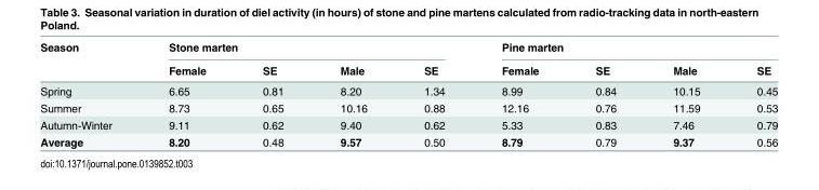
<table><thead><tr><td rowspan="2">Season</td><td colspan="4">Stone marten</td><td colspan="4">Pine marten</td></tr><tr><td>Female</td><td>SE</td><td>Male</td><td>SE</td><td>Female</td><td>SE</td><td>Male</td><td>SE</td></tr></thead><tbody><tr><td>Spring</td><td>6.65</td><td>0.81</td><td>8.20</td><td>1.34</td><td>8.99</td><td>0.84</td><td>10.15</td><td>0.45</td></tr><tr><td>Summer</td><td>8.73</td><td>0.65</td><td>10.16</td><td>0.88</td><td>12.16</td><td>0.76</td><td>11.59</td><td>0.53</td></tr><tr><td>Autumn-Winter</td><td>9.11</td><td>0.62</td><td>9.40</td><td>0.62</td><td>5.33</td><td>0.83</td><td>7.46</td><td>0.79</td></tr><tr><td>Average</td><td>8.20</td><td>0.48</td><td>9.57</td><td>0.50</td><td>8.79</td><td>0.79</td><td>9.37</td><td>0.56</td></tr></tbody></table>